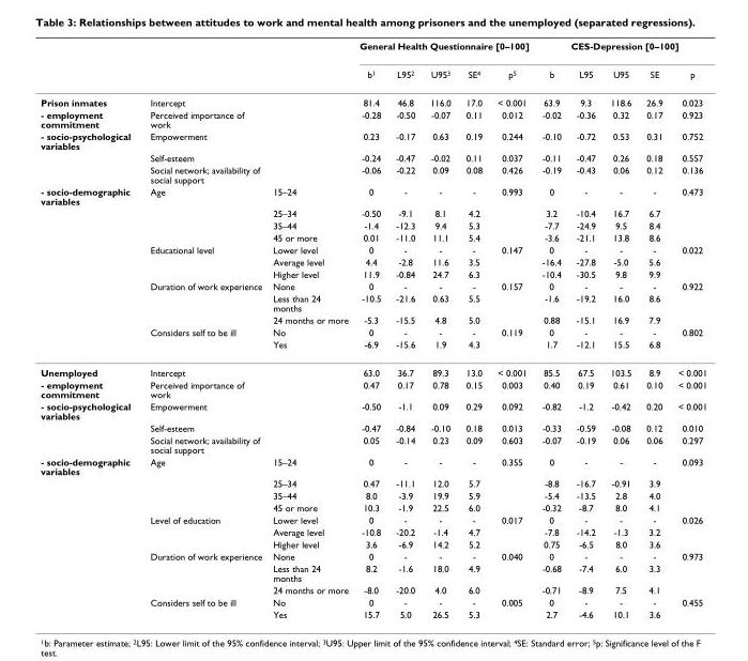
<table><thead><tr><td rowspan="2"></td><td rowspan="2"></td><td rowspan="2"></td><td colspan="5">General Health Questionnaire [0–100]</td><td colspan="5">CES-Depression [0–100]</td></tr><tr><td>b<sup>1</sup></td><td>L95<sup>2</sup></td><td>U95<sup>3</sup></td><td>SE<sup>4</sup></td><td>p<sup>5</sup></td><td>b</td><td>L95</td><td>U95</td><td>SE</td><td>p</td></tr></thead><tbody><tr><td>Prison inmates</td><td>Intercept</td><td></td><td>81.4</td><td>46.8</td><td>116.0</td><td>17.0</td><td>&lt; 0.001</td><td>63.9</td><td>9.3</td><td>118.6</td><td>26.9</td><td>0.023</td></tr><tr><td>- employment commitment</td><td>Perceived importance of work</td><td></td><td>-0.28</td><td>-0.50</td><td>-0.07</td><td>0.11</td><td>0.012</td><td>-0.02</td><td>-0.36</td><td>0.32</td><td>0.17</td><td>0.923</td></tr><tr><td rowspan="3">- socio-psychological variables</td><td>Empowerment</td><td></td><td>0.23</td><td>-0.17</td><td>0.63</td><td>0.19</td><td>0.244</td><td>-0.10</td><td>-0.72</td><td>0.53</td><td>0.31</td><td>0.752</td></tr><tr><td>Self-esteem</td><td></td><td>-0.24</td><td>-0.47</td><td>-0.02</td><td>0.11</td><td>0.037</td><td>-0.11</td><td>-0.47</td><td>0.26</td><td>0.18</td><td>0.557</td></tr><tr><td>Social network; availability of social support</td><td></td><td>-0.06</td><td>-0.22</td><td>0.09</td><td>0.08</td><td>0.426</td><td>-0.19</td><td>-0.43</td><td>0.06</td><td>0.12</td><td>0.136</td></tr><tr><td rowspan="12">- socio-demographic variables</td><td>Age</td><td>15–24</td><td>0</td><td>-</td><td>-</td><td>-</td><td>0.993</td><td>0</td><td>-</td><td>-</td><td>-</td><td>0.473</td></tr><tr><td></td><td>25–34</td><td>-0.50</td><td>-9.1</td><td>8.1</td><td>4.2</td><td></td><td>3.2</td><td>-10.4</td><td>16.7</td><td>6.7</td><td></td></tr><tr><td></td><td>35–44</td><td>-1.4</td><td>-12.3</td><td>9.4</td><td>5.3</td><td></td><td>-7.7</td><td>-24.9</td><td>9.5</td><td>8.4</td><td></td></tr><tr><td></td><td>45 or more</td><td>0.01</td><td>-11.0</td><td>11.1</td><td>5.4</td><td></td><td>-3.6</td><td>-21.1</td><td>13.8</td><td>8.6</td><td></td></tr><tr><td>Educational level</td><td>Lower level</td><td>0</td><td>-</td><td>-</td><td>-</td><td>0.147</td><td>0</td><td>-</td><td>-</td><td>-</td><td>0.022</td></tr><tr><td></td><td>Average level</td><td>4.4</td><td>-2.8</td><td>11.6</td><td>3.5</td><td></td><td>-16.4</td><td>-27.8</td><td>-5.0</td><td>5.6</td><td></td></tr><tr><td></td><td>Higher level</td><td>11.9</td><td>-0.84</td><td>24.7</td><td>6.3</td><td></td><td>-10.4</td><td>-30.5</td><td>9.8</td><td>9.9</td><td></td></tr><tr><td>Duration of work experience</td><td>None</td><td>0</td><td>-</td><td>-</td><td>-</td><td>0.157</td><td>0</td><td>-</td><td>-</td><td>-</td><td>0.922</td></tr><tr><td></td><td>Less than 24 months</td><td>-10.5</td><td>-21.6</td><td>0.63</td><td>5.5</td><td></td><td>-1.6</td><td>-19.2</td><td>16.0</td><td>8.6</td><td></td></tr><tr><td></td><td>24 months or more</td><td>-5.3</td><td>-15.5</td><td>4.8</td><td>5.0</td><td></td><td>0.88</td><td>-15.1</td><td>16.9</td><td>7.9</td><td></td></tr><tr><td>Considers self to be ill</td><td>No</td><td>0</td><td>-</td><td>-</td><td>-</td><td>0.119</td><td>0</td><td>-</td><td>-</td><td>-</td><td>0.802</td></tr><tr><td></td><td>Yes</td><td>-6.9</td><td>-15.6</td><td>1.9</td><td>4.3</td><td></td><td>1.7</td><td>-12.1</td><td>15.5</td><td>6.8</td><td></td></tr><tr><td>Unemployed</td><td>Intercept</td><td></td><td>63.0</td><td>36.7</td><td>89.3</td><td>13.0</td><td>&lt; 0.001</td><td>85.5</td><td>67.5</td><td>103.5</td><td>8.9</td><td>&lt; 0.001</td></tr><tr><td>- employment commitment</td><td>Perceived importance of work</td><td></td><td>0.47</td><td>0.17</td><td>0.78</td><td>0.15</td><td>0.003</td><td>0.40</td><td>0.19</td><td>0.61</td><td>0.10</td><td>&lt; 0.001</td></tr><tr><td rowspan="3">- socio-psychological variables</td><td>Empowerment</td><td></td><td>-0.50</td><td>-1.1</td><td>0.09</td><td>0.29</td><td>0.092</td><td>-0.82</td><td>-1.2</td><td>-0.42</td><td>0.20</td><td>&lt; 0.001</td></tr><tr><td>Self-esteem</td><td></td><td>-0.47</td><td>-0.84</td><td>-0.10</td><td>0.18</td><td>0.013</td><td>-0.33</td><td>-0.59</td><td>-0.08</td><td>0.12</td><td>0.010</td></tr><tr><td>Social network; availability of social support</td><td></td><td>0.05</td><td>-0.14</td><td>0.23</td><td>0.09</td><td>0.603</td><td>-0.07</td><td>-0.19</td><td>0.06</td><td>0.06</td><td>0.297</td></tr><tr><td rowspan="12">- socio-demographic variables</td><td>Age</td><td>15–24</td><td>0</td><td>-</td><td>-</td><td>-</td><td>0.355</td><td>0</td><td>-</td><td>-</td><td>-</td><td>0.093</td></tr><tr><td></td><td>25–34</td><td>0.47</td><td>-11.1</td><td>12.0</td><td>5.7</td><td></td><td>-8.8</td><td>-16.7</td><td>-0.91</td><td>3.9</td><td></td></tr><tr><td></td><td>35–44</td><td>8.0</td><td>-3.9</td><td>19.9</td><td>5.9</td><td></td><td>-5.4</td><td>-13.5</td><td>2.8</td><td>4.0</td><td></td></tr><tr><td></td><td>45 or more</td><td>10.3</td><td>-1.9</td><td>22.5</td><td>6.0</td><td></td><td>-0.32</td><td>-8.7</td><td>8.0</td><td>4.1</td><td></td></tr><tr><td>Level of education</td><td>Lower level</td><td>0</td><td>-</td><td>-</td><td>-</td><td>0.017</td><td>0</td><td>-</td><td>-</td><td>-</td><td>0.026</td></tr><tr><td></td><td>Average level</td><td>-10.8</td><td>-20.2</td><td>-1.4</td><td>4.7</td><td></td><td>-7.8</td><td>-14.2</td><td>-1.3</td><td>3.2</td><td></td></tr><tr><td></td><td>Higher level</td><td>3.6</td><td>-6.9</td><td>14.2</td><td>5.2</td><td></td><td>0.75</td><td>-6.5</td><td>8.0</td><td>3.6</td><td></td></tr><tr><td>Duration of work experience</td><td>None</td><td>0</td><td>-</td><td>-</td><td>-</td><td>0.040</td><td>0</td><td>-</td><td>-</td><td>-</td><td>0.973</td></tr><tr><td></td><td>Less than 24 months</td><td>8.2</td><td>-1.6</td><td>18.0</td><td>4.9</td><td></td><td>-0.68</td><td>-7.4</td><td>6.0</td><td>3.3</td><td></td></tr><tr><td></td><td>24 months or more</td><td>-8.0</td><td>-20.0</td><td>4.0</td><td>6.0</td><td></td><td>-0.71</td><td>-8.9</td><td>7.5</td><td>4.1</td><td></td></tr><tr><td>Considers self to be ill</td><td>No</td><td>0</td><td>-</td><td>-</td><td>-</td><td>0.005</td><td>0</td><td>-</td><td>-</td><td>-</td><td>0.455</td></tr><tr><td></td><td>Yes</td><td>15.7</td><td>5.0</td><td>26.5</td><td>5.3</td><td></td><td>2.7</td><td>-4.6</td><td>10.1</td><td>3.6</td><td></td></tr></tbody></table>